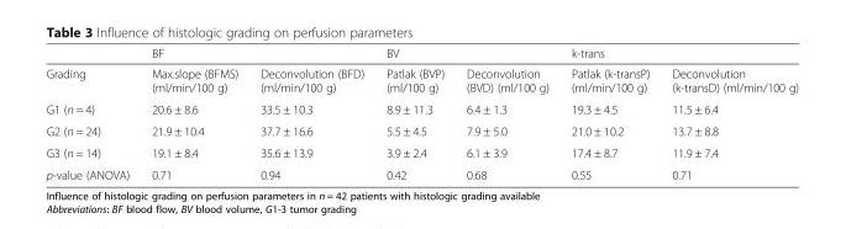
<table><thead><tr><td rowspan="2">Grading</td><td colspan="2">BF</td><td colspan="2">BV</td><td colspan="2">k-trans</td></tr><tr><td>Max.slope (BFMS) (ml/min/100 g)</td><td>Deconvolution (BFD) (ml/min/100 g)</td><td>Patlak (BVP) (ml/100 g)</td><td>Deconvolution (BVD) (ml/100 g)</td><td>Patlak (k-transP) (ml/min/100 g)</td><td>Deconvolution (k-transD) (ml/min/100 g)</td></tr></thead><tbody><tr><td>G1 (n = 4)</td><td>20.6 ± 8.6</td><td>33.5 ± 10.3</td><td>8.9 ± 11.3</td><td>6.4 ± 1.3</td><td>19.3 ± 4.5</td><td>11.5 ± 6.4</td></tr><tr><td>G2 (n = 24)</td><td>21.9 ± 10.4</td><td>37.7 ± 16.6</td><td>5.5 ± 4.5</td><td>7.9 ± 5.0</td><td>21.0 ± 10.2</td><td>13.7 ± 8.8</td></tr><tr><td>G3 (n = 14)</td><td>19.1 ± 8.4</td><td>35.6 ± 13.9</td><td>3.9 ± 2.4</td><td>6.1 ± 3.9</td><td>17.4 ± 8.7</td><td>11.9 ± 7.4</td></tr><tr><td>p-value (ANOVA)</td><td>0.71</td><td>0.94</td><td>0.42</td><td>0.68</td><td>0.55</td><td>0.71</td></tr></tbody></table>